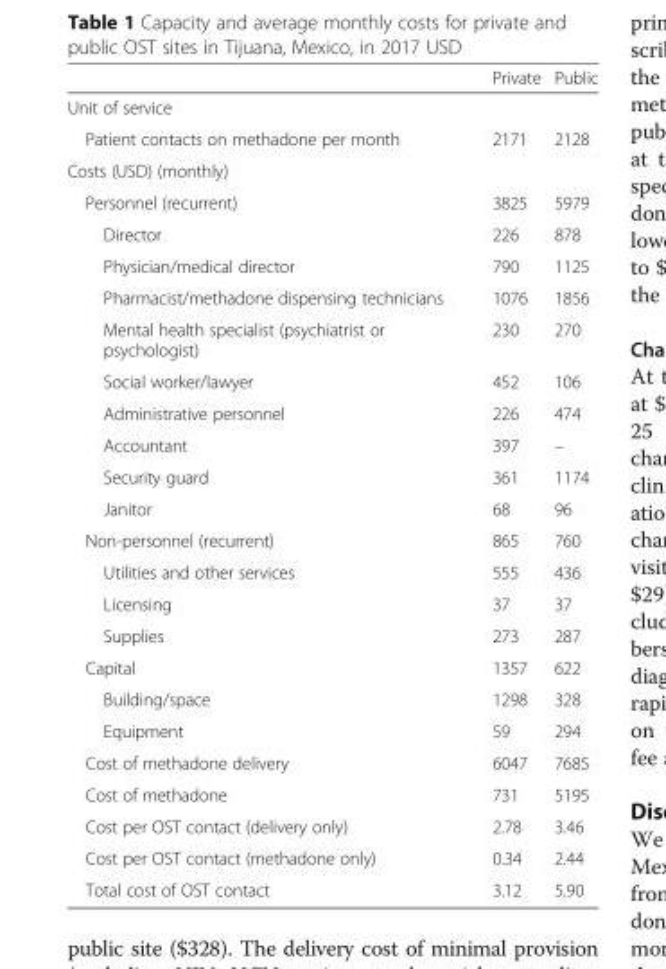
<table><thead><tr><td></td><td>Private</td><td>Public</td></tr></thead><tbody><tr><td colspan="3">Unit of service</td></tr><tr><td>Patient contacts on methadone per month</td><td>2171</td><td>2128</td></tr><tr><td colspan="3">Costs (USD) (monthly)</td></tr><tr><td>Personnel (recurrent)</td><td>3825</td><td>5979</td></tr><tr><td>Director</td><td>226</td><td>878</td></tr><tr><td>Physician/medical director</td><td>790</td><td>1125</td></tr><tr><td>Pharmacist/methadone dispensing technicians</td><td>1076</td><td>1856</td></tr><tr><td>Mental health specialist (psychiatrist or psychologist)</td><td>230</td><td>270</td></tr><tr><td>Social worker/lawyer</td><td>452</td><td>106</td></tr><tr><td>Administrative personnel</td><td>226</td><td>474</td></tr><tr><td>Accountant</td><td>397</td><td>–</td></tr><tr><td>Security guard</td><td>361</td><td>1174</td></tr><tr><td>Janitor</td><td>68</td><td>96</td></tr><tr><td>Non-personnel (recurrent)</td><td>865</td><td>760</td></tr><tr><td>Utilities and other services</td><td>555</td><td>436</td></tr><tr><td>Licensing</td><td>37</td><td>37</td></tr><tr><td>Supplies</td><td>273</td><td>287</td></tr><tr><td>Capital</td><td>1357</td><td>622</td></tr><tr><td>Building/space</td><td>1298</td><td>328</td></tr><tr><td>Equipment</td><td>59</td><td>294</td></tr><tr><td>Cost of methadone delivery</td><td>6047</td><td>7685</td></tr><tr><td>Cost of methadone</td><td>731</td><td>5195</td></tr><tr><td>Cost per OST contact (delivery only)</td><td>2.78</td><td>3.46</td></tr><tr><td>Cost per OST contact (methadone only)</td><td>0.34</td><td>2.44</td></tr><tr><td>Total cost of OST contact</td><td>3.12</td><td>5.90</td></tr></tbody></table>